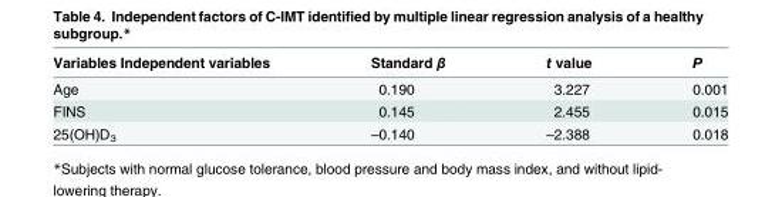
<table><thead><tr><td>Variables Independent variables</td><td>Standard β</td><td>t value</td><td>P</td></tr></thead><tbody><tr><td>Age</td><td>0.190</td><td>3.227</td><td>0.001</td></tr><tr><td>FINS</td><td>0.145</td><td>2.455</td><td>0.015</td></tr><tr><td>25(OH)D<sub>3</sub></td><td>–0.140</td><td>–2.388</td><td>0.018</td></tr></tbody></table>